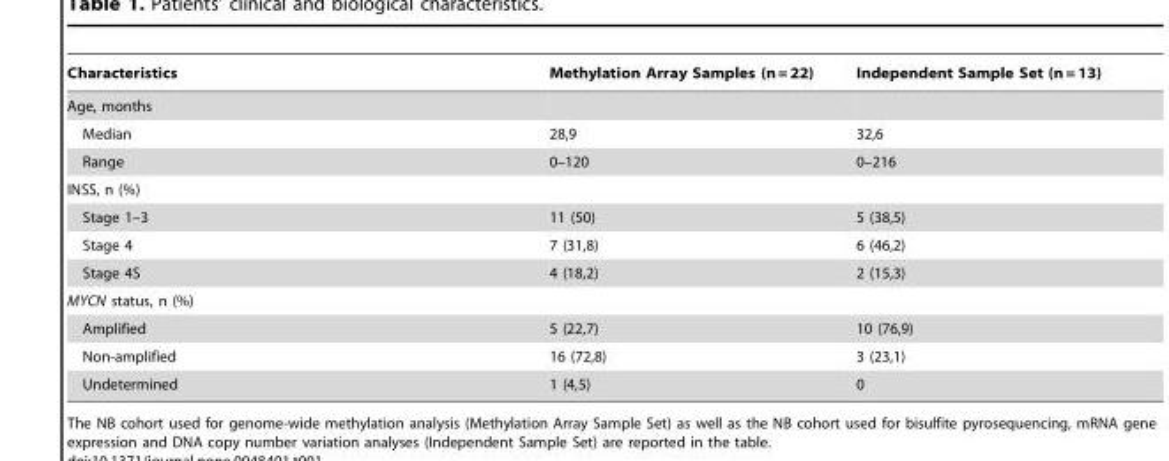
<table><thead><tr><td>Characteristics</td><td>Methylation Array Samples (n = 22)</td><td>Independent Sample Set (n = 13)</td></tr></thead><tbody><tr><td colspan="3">Age, months</td></tr><tr><td>Median</td><td>28,9</td><td>32,6</td></tr><tr><td>Range</td><td>0–120</td><td>0–216</td></tr><tr><td colspan="3">INSS, n (%)</td></tr><tr><td>Stage 1–3</td><td>11 (50)</td><td>5 (38,5)</td></tr><tr><td>Stage 4</td><td>7 (31,8)</td><td>6 (46,2)</td></tr><tr><td>Stage 4S</td><td>4 (18,2)</td><td>2 (15,3)</td></tr><tr><td colspan="3">MYCN status, n (%)</td></tr><tr><td>Amplified</td><td>5 (22,7)</td><td>10 (76,9)</td></tr><tr><td>Non-amplified</td><td>16 (72,8)</td><td>3 (23,1)</td></tr><tr><td>Undetermined</td><td>1 (4,5)</td><td>0</td></tr></tbody></table>